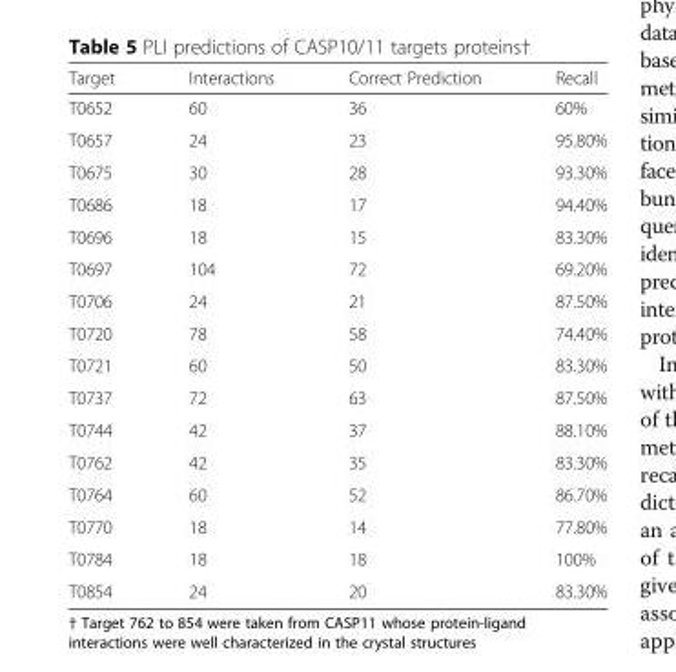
<table><thead><tr><td>Target</td><td>Interactions</td><td>Correct Prediction</td><td>Recall</td></tr></thead><tbody><tr><td>T0652</td><td>60</td><td>36</td><td>60%</td></tr><tr><td>T0657</td><td>24</td><td>23</td><td>95.80%</td></tr><tr><td>T0675</td><td>30</td><td>28</td><td>93.30%</td></tr><tr><td>T0686</td><td>18</td><td>17</td><td>94.40%</td></tr><tr><td>T0696</td><td>18</td><td>15</td><td>83.30%</td></tr><tr><td>T0697</td><td>104</td><td>72</td><td>69.20%</td></tr><tr><td>T0706</td><td>24</td><td>21</td><td>87.50%</td></tr><tr><td>T0720</td><td>78</td><td>58</td><td>74.40%</td></tr><tr><td>T0721</td><td>60</td><td>50</td><td>83.30%</td></tr><tr><td>T0737</td><td>72</td><td>63</td><td>87.50%</td></tr><tr><td>T0744</td><td>42</td><td>37</td><td>88.10%</td></tr><tr><td>T0762</td><td>42</td><td>35</td><td>83.30%</td></tr><tr><td>T0764</td><td>60</td><td>52</td><td>86.70%</td></tr><tr><td>T0770</td><td>18</td><td>14</td><td>77.80%</td></tr><tr><td>T0784</td><td>18</td><td>18</td><td>100%</td></tr><tr><td>T0854</td><td>24</td><td>20</td><td>83.30%</td></tr></tbody></table>